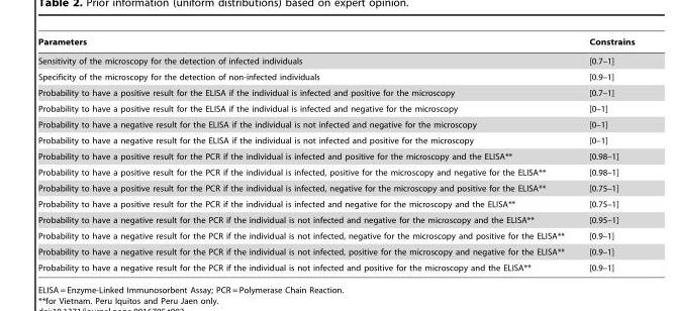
<table><thead><tr><td>Parameters</td><td>Constrains</td></tr></thead><tbody><tr><td>Sensitivity of the microscopy for the detection of infected individuals</td><td>[0.7–1]</td></tr><tr><td>Specificity of the microscopy for the detection of non-infected individuals</td><td>[0.9–1]</td></tr><tr><td>Probability to have a positive result for the ELISA if the individual is infected and positive for the microscopy</td><td>[0.7–1]</td></tr><tr><td>Probability to have a positive result for the ELISA if the individual is infected and negative for the microscopy</td><td>[0–1]</td></tr><tr><td>Probability to have a negative result for the ELISA if the individual is not infected and negative for the microscopy</td><td>[0–1]</td></tr><tr><td>Probability to have a negative result for the ELISA if the individual is not infected and positive for the microscopy</td><td>[0–1]</td></tr><tr><td>Probability to have a positive result for the PCR if the individual is infected and positive for the microscopy and the ELISA**</td><td>[0.98–1]</td></tr><tr><td>Probability to have a positive result for the PCR if the individual is infected, positive for the microscopy and negative for the ELISA**</td><td>[0.98–1]</td></tr><tr><td>Probability to have a positive result for the PCR if the individual is infected, negative for the microscopy and positive for the ELISA**</td><td>[0.75–1]</td></tr><tr><td>Probability to have a positive result for the PCR if the individual is infected and negative for the microscopy and the ELISA**</td><td>[0.75–1]</td></tr><tr><td>Probability to have a negative result for the PCR if the individual is not infected and negative for the microscopy and the ELISA**</td><td>[0.95–1]</td></tr><tr><td>Probability to have a negative result for the PCR if the individual is not infected, negative for the microscopy and positive for the ELISA**</td><td>[0.9–1]</td></tr><tr><td>Probability to have a negative result for the PCR if the individual is not infected, positive for the microscopy and negative for the ELISA**</td><td>[0.9–1]</td></tr><tr><td>Probability to have a negative result for the PCR if the individual is not infected and positive for the microscopy and the ELISA**</td><td>[0.9–1]</td></tr></tbody></table>